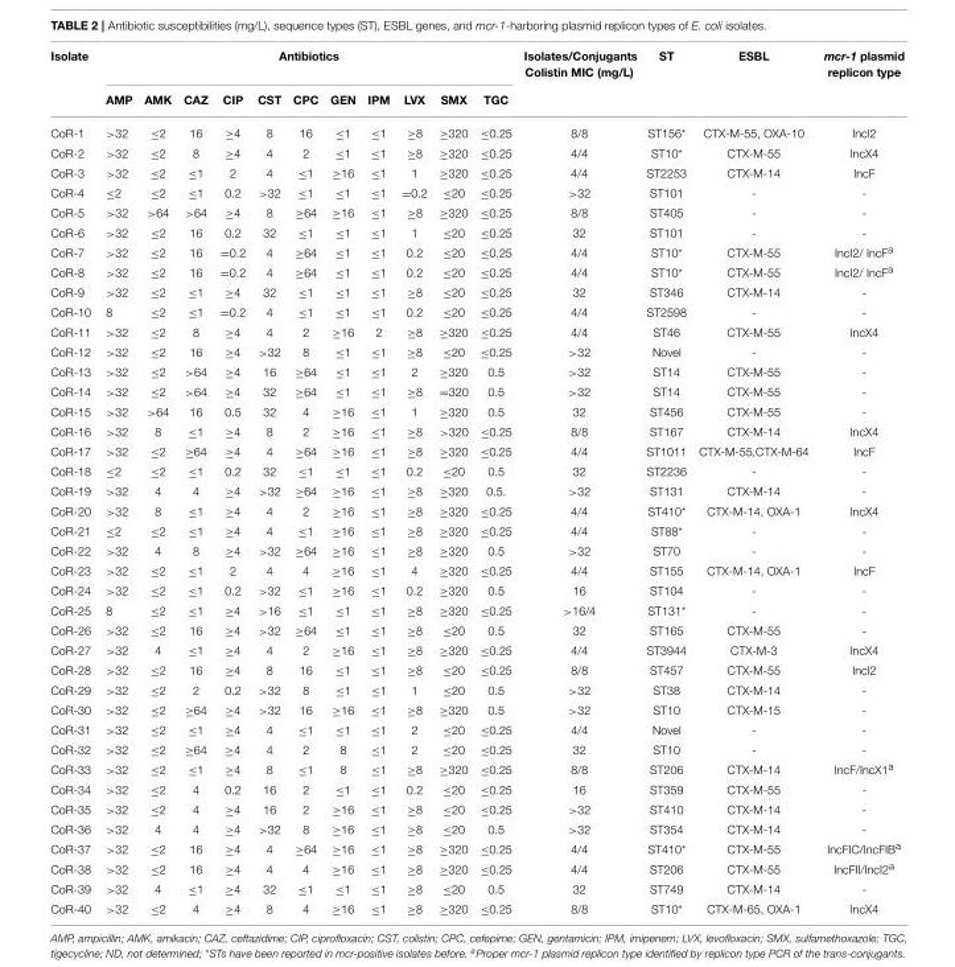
<table><thead><tr><td rowspan="2">Isolate</td><td colspan="11">Antibiotics</td><td rowspan="2">Isolates/Conjugants Colistin MIC (mg/L)</td><td rowspan="2">ST</td><td rowspan="2">ESBL</td><td rowspan="2">mcr-1 plasmid replicon type</td></tr><tr><td>AMP</td><td>AMK</td><td>CAZ</td><td>CIP</td><td>CST</td><td>CPC</td><td>GEN</td><td>IPM</td><td>LVX</td><td>SMX</td><td>TGC</td></tr></thead><tbody><tr><td>CoR-1</td><td>&gt;32</td><td>≤2</td><td>16</td><td>≥4</td><td>8</td><td>16</td><td>≤1</td><td>≤1</td><td>≥8</td><td>≥320</td><td>≤0.25</td><td>8/8</td><td>ST156*</td><td>CTX-M-55, OXA-10</td><td>IncI2</td></tr><tr><td>CoR-2</td><td>&gt;32</td><td>≤2</td><td>8</td><td>≥4</td><td>4</td><td>2</td><td>≤1</td><td>≤1</td><td>≥8</td><td>≥320</td><td>≤0.25</td><td>4/4</td><td>ST10*</td><td>CTX-M-55</td><td>IncX4</td></tr><tr><td>CoR-3</td><td>&gt;32</td><td>≤2</td><td>≤1</td><td>2</td><td>4</td><td>≤1</td><td>≥16</td><td>≤1</td><td>1</td><td>≥320</td><td>≤0.25</td><td>4/4</td><td>ST2253</td><td>CTX-M-14</td><td>IncF</td></tr><tr><td>CoR-4</td><td>≤2</td><td>≤2</td><td>≤1</td><td>0.2</td><td>&gt;32</td><td>≤1</td><td>≤1</td><td>≤1</td><td>=0.2</td><td>≤20</td><td>≤0.25</td><td>&gt;32</td><td>ST101</td><td>-</td><td>-</td></tr><tr><td>CoR-5</td><td>&gt;32</td><td>&gt;64</td><td>&gt;64</td><td>≥4</td><td>8</td><td>≥64</td><td>≥16</td><td>≤1</td><td>≥8</td><td>≥320</td><td>≤0.25</td><td>8/8</td><td>ST405</td><td>-</td><td>-</td></tr><tr><td>CoR-6</td><td>&gt;32</td><td>≤2</td><td>16</td><td>0.2</td><td>32</td><td>≤1</td><td>≤1</td><td>≤1</td><td>1</td><td>≤20</td><td>≤0.25</td><td>32</td><td>ST101</td><td>-</td><td>-</td></tr><tr><td>CoR-7</td><td>&gt;32</td><td>≤2</td><td>16</td><td>=0.2</td><td>4</td><td>≥64</td><td>≤1</td><td>≤1</td><td>0.2</td><td>≤20</td><td>≤0.25</td><td>4/4</td><td>ST10*</td><td>CTX-M-55</td><td>IncI2/ IncF<sup>a</sup></td></tr><tr><td>CoR-8</td><td>&gt;32</td><td>≤2</td><td>16</td><td>=0.2</td><td>4</td><td>≥64</td><td>≤1</td><td>≤1</td><td>0.2</td><td>≤20</td><td>≤0.25</td><td>4/4</td><td>ST10*</td><td>CTX-M-55</td><td>IncI2/ IncF<sup>a</sup></td></tr><tr><td>CoR-9</td><td>&gt;32</td><td>≤2</td><td>≤1</td><td>≥4</td><td>32</td><td>≤1</td><td>≤1</td><td>≤1</td><td>≥8</td><td>≤20</td><td>≤0.25</td><td>32</td><td>ST346</td><td>CTX-M-14</td><td>-</td></tr><tr><td>CoR-10</td><td>8</td><td>≤2</td><td>≤1</td><td>=0.2</td><td>4</td><td>≤1</td><td>≤1</td><td>≤1</td><td>0.2</td><td>≤20</td><td>≤0.25</td><td>4/4</td><td>ST2598</td><td>-</td><td>-</td></tr><tr><td>CoR-11</td><td>&gt;32</td><td>≤2</td><td>8</td><td>≥4</td><td>4</td><td>2</td><td>≥16</td><td>2</td><td>≥8</td><td>≥320</td><td>≤0.25</td><td>4/4</td><td>ST46</td><td>CTX-M-55</td><td>IncX4</td></tr><tr><td>CoR-12</td><td>&gt;32</td><td>≤2</td><td>16</td><td>≥4</td><td>&gt;32</td><td>8</td><td>≤1</td><td>≤1</td><td>≥8</td><td>≤20</td><td>≤0.25</td><td>&gt;32</td><td>Novel</td><td>-</td><td>-</td></tr><tr><td>CoR-13</td><td>&gt;32</td><td>≤2</td><td>&gt;64</td><td>≥4</td><td>16</td><td>≥64</td><td>≤1</td><td>≤1</td><td>2</td><td>≥320</td><td>0.5</td><td>&gt;32</td><td>ST14</td><td>CTX-M-55</td><td>-</td></tr><tr><td>CoR-14</td><td>&gt;32</td><td>≤2</td><td>&gt;64</td><td>≥4</td><td>32</td><td>≥64</td><td>≤1</td><td>≤1</td><td>≥8</td><td>=320</td><td>0.5</td><td>&gt;32</td><td>ST14</td><td>CTX-M-55</td><td>-</td></tr><tr><td>CoR-15</td><td>&gt;32</td><td>&gt;64</td><td>16</td><td>0.5</td><td>32</td><td>4</td><td>≥16</td><td>≤1</td><td>1</td><td>≥320</td><td>0.5</td><td>32</td><td>ST456</td><td>CTX-M-55</td><td>-</td></tr><tr><td>CoR-16</td><td>&gt;32</td><td>8</td><td>≤1</td><td>≥4</td><td>8</td><td>2</td><td>≥16</td><td>≤1</td><td>≥8</td><td>&gt;320</td><td>≤0.25</td><td>8/8</td><td>ST167</td><td>CTX-M-14</td><td>IncX4</td></tr><tr><td>CoR-17</td><td>&gt;32</td><td>≤2</td><td>≥64</td><td>≥4</td><td>4</td><td>≥64</td><td>≥16</td><td>≤1</td><td>≥8</td><td>≥320</td><td>≤0.25</td><td>4/4</td><td>ST1011</td><td>CTX-M-55,CTX-M-64</td><td>IncF</td></tr><tr><td>CoR-18</td><td>≤2</td><td>≤2</td><td>≤1</td><td>0.2</td><td>32</td><td>≤1</td><td>≤1</td><td>≤1</td><td>0.2</td><td>≤20</td><td>0.5</td><td>32</td><td>ST2236</td><td>-</td><td>-</td></tr><tr><td>CoR-19</td><td>&gt;32</td><td>4</td><td>4</td><td>≥4</td><td>&gt;32</td><td>≥64</td><td>≥16</td><td>≤1</td><td>≥8</td><td>≥320</td><td>0.5.</td><td>&gt;32</td><td>ST131</td><td>CTX-M-14</td><td>-</td></tr><tr><td>CoR-20</td><td>&gt;32</td><td>8</td><td>≤1</td><td>≥4</td><td>4</td><td>2</td><td>≥16</td><td>≤1</td><td>≥8</td><td>≥320</td><td>≤0.25</td><td>4/4</td><td>ST410*</td><td>CTX-M-14, OXA-1</td><td>IncX4</td></tr><tr><td>CoR-21</td><td>≤2</td><td>≤2</td><td>≤1</td><td>≥4</td><td>4</td><td>≤1</td><td>≥16</td><td>≤1</td><td>≥8</td><td>≥320</td><td>≤0.25</td><td>4/4</td><td>ST88*</td><td>-</td><td>-</td></tr><tr><td>CoR-22</td><td>&gt;32</td><td>4</td><td>8</td><td>≥4</td><td>&gt;32</td><td>≥64</td><td>≥16</td><td>≤1</td><td>≥8</td><td>≥320</td><td>0.5</td><td>&gt;32</td><td>ST70</td><td>-</td><td>-</td></tr><tr><td>CoR-23</td><td>&gt;32</td><td>≤2</td><td>≤1</td><td>2</td><td>4</td><td>4</td><td>≥16</td><td>≤1</td><td>4</td><td>≥320</td><td>≤0.25</td><td>4/4</td><td>ST155</td><td>CTX-M-14, OXA-1</td><td>IncF</td></tr><tr><td>CoR-24</td><td>&gt;32</td><td>≤2</td><td>≤1</td><td>0.2</td><td>&gt;32</td><td>≤1</td><td>≥16</td><td>≤1</td><td>0.2</td><td>≥320</td><td>0.5</td><td>16</td><td>ST104</td><td>-</td><td>-</td></tr><tr><td>CoR-25</td><td>8</td><td>≤2</td><td>≤1</td><td>≥4</td><td>&gt;16</td><td>≤1</td><td>≤1</td><td>≤1</td><td>≥8</td><td>≥320</td><td>≤0.25</td><td>&gt;16/4</td><td>ST131*</td><td>-</td><td>-</td></tr><tr><td>CoR-26</td><td>&gt;32</td><td>≤2</td><td>16</td><td>≥4</td><td>&gt;32</td><td>≥64</td><td>≤1</td><td>≤1</td><td>≥8</td><td>≤20</td><td>0.5</td><td>32</td><td>ST165</td><td>CTX-M-55</td><td>-</td></tr><tr><td>CoR-27</td><td>&gt;32</td><td>4</td><td>≤1</td><td>≥4</td><td>4</td><td>2</td><td>≥16</td><td>≤1</td><td>≥8</td><td>≥320</td><td>≤0.25</td><td>4/4</td><td>ST3944</td><td>CTX-M-3</td><td>IncX4</td></tr><tr><td>CoR-28</td><td>&gt;32</td><td>≤2</td><td>16</td><td>≥4</td><td>8</td><td>16</td><td>≤1</td><td>≤1</td><td>≥8</td><td>≤20</td><td>≤0.25</td><td>8/8</td><td>ST457</td><td>CTX-M-55</td><td>IncI2</td></tr><tr><td>CoR-29</td><td>&gt;32</td><td>≤2</td><td>2</td><td>0.2</td><td>&gt;32</td><td>8</td><td>≤1</td><td>≤1</td><td>1</td><td>≤20</td><td>0.5</td><td>&gt;32</td><td>ST38</td><td>CTX-M-14</td><td>-</td></tr><tr><td>CoR-30</td><td>&gt;32</td><td>≤2</td><td>≥64</td><td>≥4</td><td>&gt;32</td><td>16</td><td>≥16</td><td>≤1</td><td>≥8</td><td>≥320</td><td>0.5</td><td>&gt;32</td><td>ST10</td><td>CTX-M-15</td><td>-</td></tr><tr><td>CoR-31</td><td>&gt;32</td><td>≤2</td><td>≤1</td><td>≥4</td><td>4</td><td>≤1</td><td>≤1</td><td>≤1</td><td>2</td><td>≤20</td><td>≤0.25</td><td>4/4</td><td>Novel</td><td>-</td><td>-</td></tr><tr><td>CoR-32</td><td>&gt;32</td><td>≤2</td><td>≥64</td><td>≥4</td><td>4</td><td>2</td><td>8</td><td>≤1</td><td>2</td><td>≤20</td><td>≤0.25</td><td>32</td><td>ST10</td><td>-</td><td>-</td></tr><tr><td>CoR-33</td><td>&gt;32</td><td>≤2</td><td>≤1</td><td>≥4</td><td>8</td><td>≤1</td><td>8</td><td>≤1</td><td>≥8</td><td>≥320</td><td>≤0.25</td><td>8/8</td><td>ST206</td><td>CTX-M-14</td><td>IncF/IncX1<sup>a</sup></td></tr><tr><td>CoR-34</td><td>&gt;32</td><td>≤2</td><td>4</td><td>0.2</td><td>16</td><td>2</td><td>≤1</td><td>≤1</td><td>0.2</td><td>≤20</td><td>≤0.25</td><td>16</td><td>ST359</td><td>CTX-M-55</td><td>-</td></tr><tr><td>CoR-35</td><td>&gt;32</td><td>≤2</td><td>4</td><td>≥4</td><td>16</td><td>2</td><td>≥16</td><td>≤1</td><td>≥8</td><td>≤20</td><td>≤0.25</td><td>&gt;32</td><td>ST410</td><td>CTX-M-14</td><td>-</td></tr><tr><td>CoR-36</td><td>&gt;32</td><td>4</td><td>4</td><td>≥4</td><td>&gt;32</td><td>8</td><td>≥16</td><td>≤1</td><td>≥8</td><td>≤20</td><td>0.5</td><td>&gt;32</td><td>ST354</td><td>CTX-M-14</td><td>-</td></tr><tr><td>CoR-37</td><td>&gt;32</td><td>≤2</td><td>16</td><td>≥4</td><td>4</td><td>≥64</td><td>≥16</td><td>≤1</td><td>≥8</td><td>≥320</td><td>≤0.25</td><td>4/4</td><td>ST410*</td><td>CTX-M-55</td><td>IncFIC/IncFIB<sup>a</sup></td></tr><tr><td>CoR-38</td><td>&gt;32</td><td>≤2</td><td>16</td><td>≥4</td><td>4</td><td>4</td><td>≥16</td><td>≤1</td><td>≥8</td><td>≥320</td><td>≤0.25</td><td>4/4</td><td>ST206</td><td>CTX-M-55</td><td>IncFII/IncI2<sup>a</sup></td></tr><tr><td>CoR-39</td><td>&gt;32</td><td>4</td><td>≤1</td><td>≥4</td><td>32</td><td>≤1</td><td>≤1</td><td>≤1</td><td>≥8</td><td>≤20</td><td>0.5</td><td>32</td><td>ST749</td><td>CTX-M-14</td><td>-</td></tr><tr><td>CoR-40</td><td>&gt;32</td><td>≤2</td><td>4</td><td>≥4</td><td>8</td><td>4</td><td>≥16</td><td>≤1</td><td>≥8</td><td>≥320</td><td>≤0.25</td><td>8/8</td><td>ST10*</td><td>CTX-M-65, OXA-1</td><td>IncX4</td></tr></tbody></table>